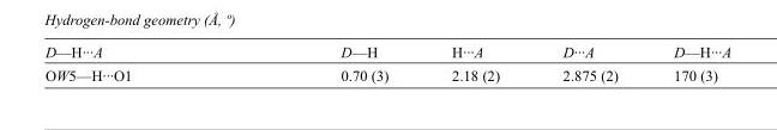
<table><tbody><tr><td>D—H···A</td><td>D—H</td><td>H···A</td><td>D···A</td><td>D—H···A</td></tr><tr><td>OW5—H···O1</td><td>0.70 (3)</td><td>2.18 (2)</td><td>2.875 (2)</td><td>170 (3)</td></tr></tbody></table>